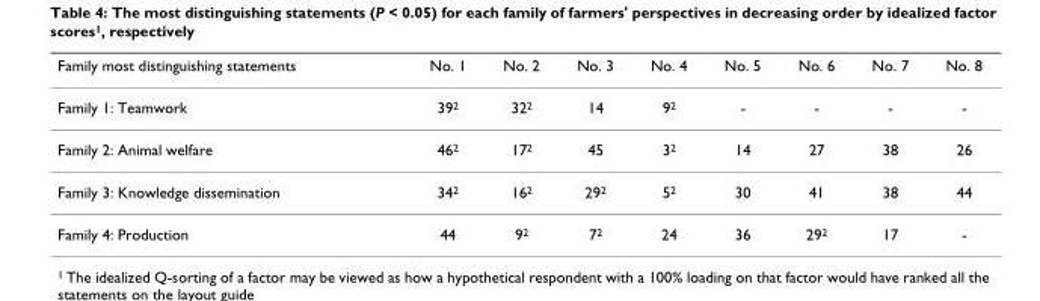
<table><thead><tr><td>Family most distinguishing statements</td><td>No. 1</td><td>No. 2</td><td>No. 3</td><td>No. 4</td><td>No. 5</td><td>No. 6</td><td>No. 7</td><td>No. 8</td></tr></thead><tbody><tr><td>Family 1: Teamwork</td><td>39<sup>2</sup></td><td>32<sup>2</sup></td><td>14</td><td>9<sup>2</sup></td><td>-</td><td>-</td><td>-</td><td>-</td></tr><tr><td>Family 2: Animal welfare</td><td>46<sup>2</sup></td><td>17<sup>2</sup></td><td>45</td><td>3<sup>2</sup></td><td>14</td><td>27</td><td>38</td><td>26</td></tr><tr><td>Family 3: Knowledge dissemination</td><td>34<sup>2</sup></td><td>16<sup>2</sup></td><td>29<sup>2</sup></td><td>5<sup>2</sup></td><td>30</td><td>41</td><td>38</td><td>44</td></tr><tr><td>Family 4: Production</td><td>44</td><td>9<sup>2</sup></td><td>7<sup>2</sup></td><td>24</td><td>36</td><td>29<sup>2</sup></td><td>17</td><td>-</td></tr></tbody></table>